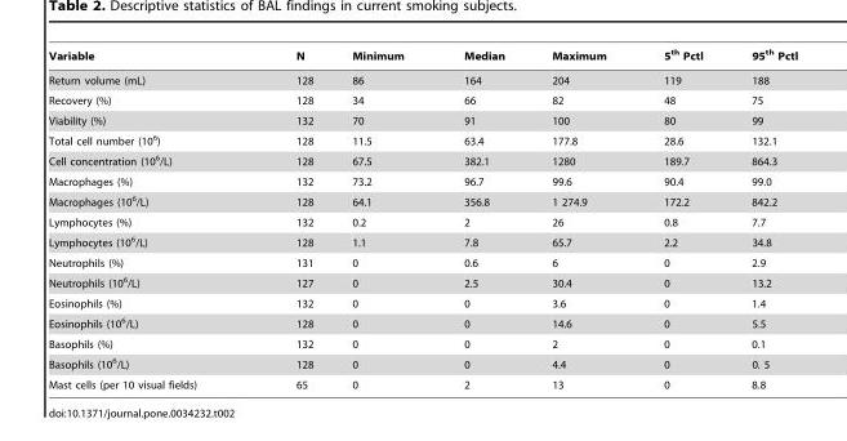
<table><thead><tr><td>Variable</td><td>N</td><td>Minimum</td><td>Median</td><td>Maximum</td><td>5<sup>th</sup> Pctl</td><td>95<sup>th</sup> Pctl</td></tr></thead><tbody><tr><td>Return volume (mL)</td><td>128</td><td>86</td><td>164</td><td>204</td><td>119</td><td>188</td></tr><tr><td>Recovery (%)</td><td>128</td><td>34</td><td>66</td><td>82</td><td>48</td><td>75</td></tr><tr><td>Viability (%)</td><td>132</td><td>70</td><td>91</td><td>100</td><td>80</td><td>99</td></tr><tr><td>Total cell number (10<sup>6</sup>)</td><td>128</td><td>11.5</td><td>63.4</td><td>177.8</td><td>28.6</td><td>132.1</td></tr><tr><td>Cell concentration (10<sup>6</sup>/L)</td><td>128</td><td>67.5</td><td>382.1</td><td>1280</td><td>189.7</td><td>864.3</td></tr><tr><td>Macrophages (%)</td><td>132</td><td>73.2</td><td>96.7</td><td>99.6</td><td>90.4</td><td>99.0</td></tr><tr><td>Macrophages (10<sup>6</sup>/L)</td><td>128</td><td>64.1</td><td>356.8</td><td>1 274.9</td><td>172.2</td><td>842.2</td></tr><tr><td>Lymphocytes (%)</td><td>132</td><td>0.2</td><td>2</td><td>26</td><td>0.8</td><td>7.7</td></tr><tr><td>Lymphocytes (10<sup>6</sup>/L)</td><td>128</td><td>1.1</td><td>7.8</td><td>65.7</td><td>2.2</td><td>34.8</td></tr><tr><td>Neutrophils (%)</td><td>131</td><td>0</td><td>0.6</td><td>6</td><td>0</td><td>2.9</td></tr><tr><td>Neutrophils (10<sup>6</sup>/L)</td><td>127</td><td>0</td><td>2.5</td><td>30.4</td><td>0</td><td>13.2</td></tr><tr><td>Eosinophils (%)</td><td>132</td><td>0</td><td>0</td><td>3.6</td><td>0</td><td>1.4</td></tr><tr><td>Eosinophils (10<sup>6</sup>/L)</td><td>128</td><td>0</td><td>0</td><td>14.6</td><td>0</td><td>5.5</td></tr><tr><td>Basophils (%)</td><td>132</td><td>0</td><td>0</td><td>2</td><td>0</td><td>0.1</td></tr><tr><td>Basophils (10<sup>6</sup>/L)</td><td>128</td><td>0</td><td>0</td><td>4.4</td><td>0</td><td>0. 5</td></tr><tr><td>Mast cells (per 10 visual fields)</td><td>65</td><td>0</td><td>2</td><td>13</td><td>0</td><td>8.8</td></tr></tbody></table>